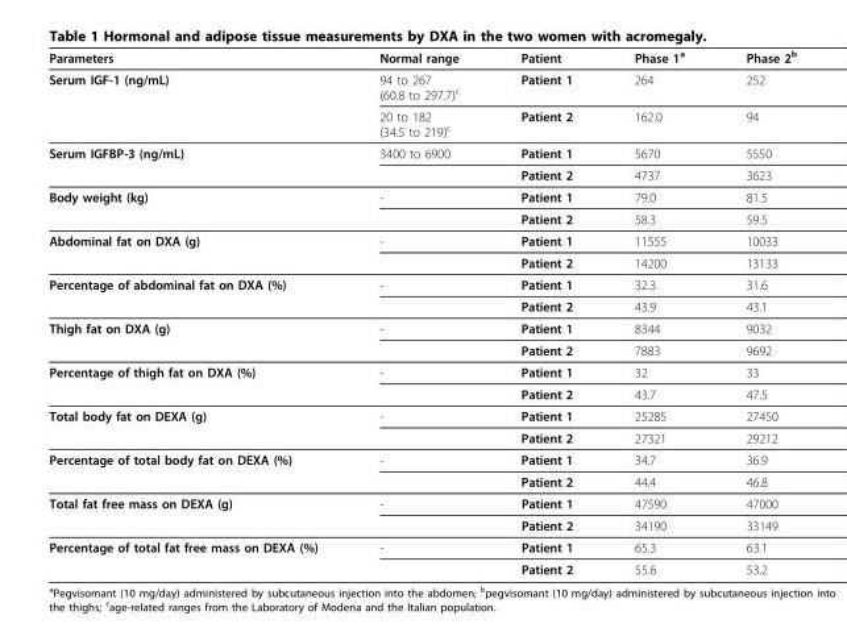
<table><thead><tr><td>Parameters</td><td>Normal range</td><td>Patient</td><td>Phase 1<sup>a</sup></td><td>Phase 2<sup>b</sup></td></tr></thead><tbody><tr><td rowspan="2">Serum IGF-1 (ng/mL)</td><td>94 to 267 (60.8 to 297.7)<sup>c</sup></td><td>Patient 1</td><td>264</td><td>252</td></tr><tr><td>20 to 182 (34.5 to 219)<sup>c</sup></td><td>Patient 2</td><td>162.0</td><td>94</td></tr><tr><td rowspan="2">Serum IGFBP-3 (ng/mL)</td><td>3400 to 6900</td><td>Patient 1</td><td>5670</td><td>5550</td></tr><tr><td></td><td>Patient 2</td><td>4737</td><td>3623</td></tr><tr><td rowspan="2">Body weight (kg)</td><td>-</td><td>Patient 1</td><td>79.0</td><td>81.5</td></tr><tr><td></td><td>Patient 2</td><td>58.3</td><td>59.5</td></tr><tr><td rowspan="2">Abdominal fat on DXA (g)</td><td>-</td><td>Patient 1</td><td>11555</td><td>10033</td></tr><tr><td></td><td>Patient 2</td><td>14200</td><td>13133</td></tr><tr><td rowspan="2">Percentage of abdominal fat on DXA (%)</td><td>-</td><td>Patient 1</td><td>32.3</td><td>31.6</td></tr><tr><td></td><td>Patient 2</td><td>43.9</td><td>43.1</td></tr><tr><td rowspan="2">Thigh fat on DXA (g)</td><td>-</td><td>Patient 1</td><td>8344</td><td>9032</td></tr><tr><td></td><td>Patient 2</td><td>7883</td><td>9692</td></tr><tr><td rowspan="2">Percentage of thigh fat on DXA (%)</td><td>-</td><td>Patient 1</td><td>32</td><td>33</td></tr><tr><td></td><td>Patient 2</td><td>43.7</td><td>47.5</td></tr><tr><td rowspan="2">Total body fat on DEXA (g)</td><td>-</td><td>Patient 1</td><td>25285</td><td>27450</td></tr><tr><td></td><td>Patient 2</td><td>27321</td><td>29212</td></tr><tr><td rowspan="2">Percentage of total body fat on DEXA (%)</td><td>-</td><td>Patient 1</td><td>34.7</td><td>36.9</td></tr><tr><td></td><td>Patient 2</td><td>44.4</td><td>46.8</td></tr><tr><td rowspan="2">Total fat free mass on DEXA (g)</td><td>-</td><td>Patient 1</td><td>47590</td><td>47000</td></tr><tr><td></td><td>Patient 2</td><td>34190</td><td>33149</td></tr><tr><td rowspan="2">Percentage of total fat free mass on DEXA (%)</td><td>-</td><td>Patient 1</td><td>65.3</td><td>63.1</td></tr><tr><td></td><td>Patient 2</td><td>55.6</td><td>53.2</td></tr></tbody></table>